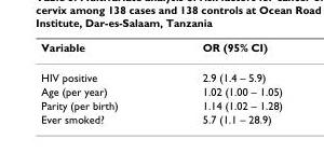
<table><thead><tr><td>Variable</td><td>OR (95% CI)</td></tr></thead><tbody><tr><td>HIV positive</td><td>2.9 (1.4 – 5.9)</td></tr><tr><td>Age (per year)</td><td>1.02 (1.00 – 1.05)</td></tr><tr><td>Parity (per birth)</td><td>1.14 (1.02 – 1.28)</td></tr><tr><td>Ever smoked?</td><td>5.7 (1.1 – 28.9)</td></tr></tbody></table>